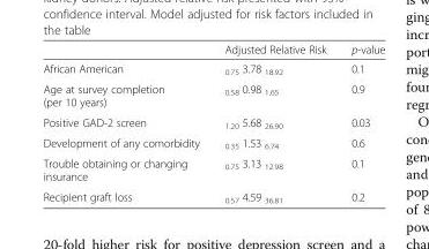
<table><thead><tr><td></td><td>Adjusted Relative Risk</td><td>p-value</td></tr></thead><tbody><tr><td>African American</td><td><sub>0.75</sub> 3.78 <sub>18.92</sub></td><td>0.1</td></tr><tr><td>Age at survey completion (per 10 years)</td><td><sub>0.58</sub> 0.98 <sub>1.65</sub></td><td>0.9</td></tr><tr><td>Positive GAD-2 screen</td><td><sub>1.20</sub> 5.68 <sub>26.90</sub></td><td>0.03</td></tr><tr><td>Development of any comorbidity</td><td><sub>0.35</sub> 1.53 <sub>6.74</sub></td><td>0.6</td></tr><tr><td>Trouble obtaining or changing insurance</td><td><sub>0.75</sub> 3.13 <sub>12.98</sub></td><td>0.1</td></tr><tr><td>Recipient graft loss</td><td><sub>0.57</sub> 4.59 <sub>36.81</sub></td><td>0.2</td></tr></tbody></table>